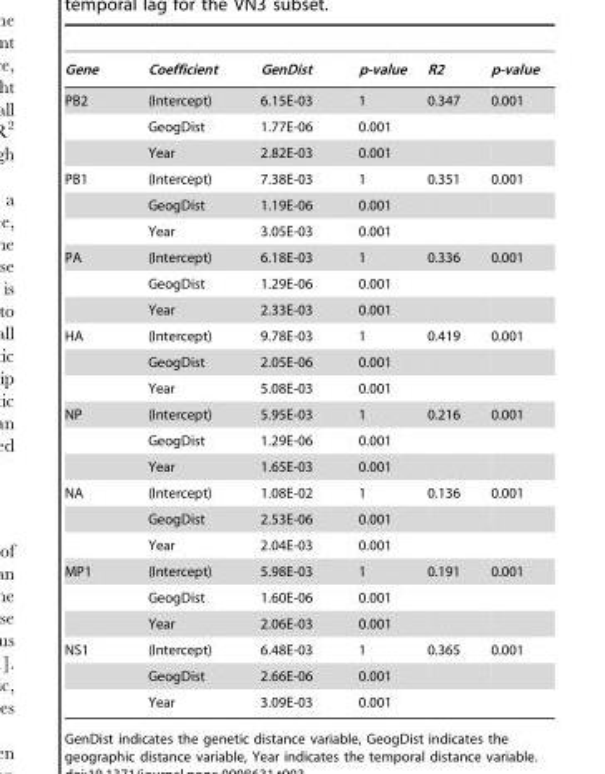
<table><thead><tr><td>Gene</td><td>Coefficient</td><td>GenDist</td><td>p-value</td><td>R2</td><td>p-value</td></tr></thead><tbody><tr><td rowspan="3">PB2</td><td>(Intercept)</td><td>6.15E-03</td><td>1</td><td>0.347</td><td>0.001</td></tr><tr><td>GeogDist</td><td>1.77E-06</td><td>0.001</td><td></td><td></td></tr><tr><td>Year</td><td>2.82E-03</td><td>0.001</td><td></td><td></td></tr><tr><td rowspan="3">PB1</td><td>(Intercept)</td><td>7.38E-03</td><td>1</td><td>0.351</td><td>0.001</td></tr><tr><td>GeogDist</td><td>1.19E-06</td><td>0.001</td><td></td><td></td></tr><tr><td>Year</td><td>3.05E-03</td><td>0.001</td><td></td><td></td></tr><tr><td rowspan="3">PA</td><td>(Intercept)</td><td>6.18E-03</td><td>1</td><td>0.336</td><td>0.001</td></tr><tr><td>GeogDist</td><td>1.29E-06</td><td>0.001</td><td></td><td></td></tr><tr><td>Year</td><td>2.33E-03</td><td>0.001</td><td></td><td></td></tr><tr><td rowspan="3">HA</td><td>(Intercept)</td><td>9.78E-03</td><td>1</td><td>0.419</td><td>0.001</td></tr><tr><td>GeogDist</td><td>2.05E-06</td><td>0.001</td><td></td><td></td></tr><tr><td>Year</td><td>5.08E-03</td><td>0.001</td><td></td><td></td></tr><tr><td rowspan="3">NP</td><td>(Intercept)</td><td>5.95E-03</td><td>1</td><td>0.216</td><td>0.001</td></tr><tr><td>GeogDist</td><td>1.29E-06</td><td>0.001</td><td></td><td></td></tr><tr><td>Year</td><td>1.65E-03</td><td>0.001</td><td></td><td></td></tr><tr><td rowspan="3">NA</td><td>(Intercept)</td><td>1.08E-02</td><td>1</td><td>0.136</td><td>0.001</td></tr><tr><td>GeogDist</td><td>2.53E-06</td><td>0.001</td><td></td><td></td></tr><tr><td>Year</td><td>2.04E-03</td><td>0.001</td><td></td><td></td></tr><tr><td rowspan="3">MP1</td><td>(Intercept)</td><td>5.98E-03</td><td>1</td><td>0.191</td><td>0.001</td></tr><tr><td>GeogDist</td><td>1.60E-06</td><td>0.001</td><td></td><td></td></tr><tr><td>Year</td><td>2.06E-03</td><td>0.001</td><td></td><td></td></tr><tr><td rowspan="3">NS1</td><td>(Intercept)</td><td>6.48E-03</td><td>1</td><td>0.365</td><td>0.001</td></tr><tr><td>GeogDist</td><td>2.66E-06</td><td>0.001</td><td></td><td></td></tr><tr><td>Year</td><td>3.09E-03</td><td>0.001</td><td></td><td></td></tr></tbody></table>